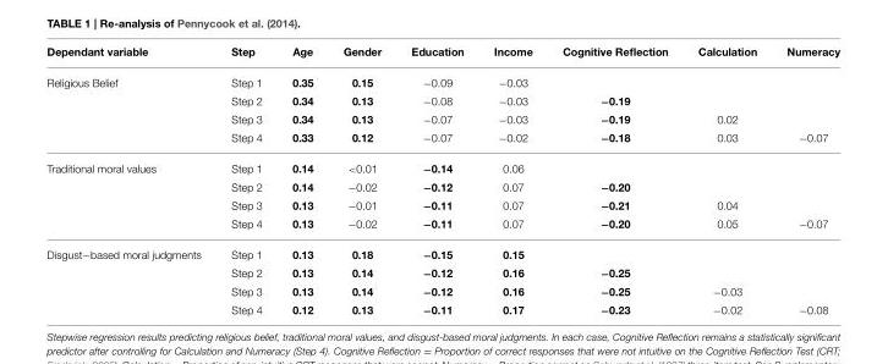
<table><thead><tr><td>Dependant variable</td><td>Step</td><td>Age</td><td>Gender</td><td>Education</td><td>Income</td><td>Cognitive Reflection</td><td>Calculation</td><td>Numeracy</td></tr></thead><tbody><tr><td rowspan="4">Religious Belief</td><td>Step 1</td><td>0.35</td><td>0.15</td><td>−0.09</td><td>−0.03</td><td></td><td></td><td></td></tr><tr><td>Step 2</td><td>0.34</td><td>0.13</td><td>−0.08</td><td>−0.03</td><td>−0.19</td><td></td><td></td></tr><tr><td>Step 3</td><td>0.34</td><td>0.13</td><td>−0.07</td><td>−0.03</td><td>−0.19</td><td>0.02</td><td></td></tr><tr><td>Step 4</td><td>0.33</td><td>0.12</td><td>−0.07</td><td>−0.02</td><td>−0.18</td><td>0.03</td><td>−0.07</td></tr><tr><td rowspan="4">Traditional moral values</td><td>Step 1</td><td>0.14</td><td>&lt;0.01</td><td>−0.14</td><td>0.06</td><td></td><td></td><td></td></tr><tr><td>Step 2</td><td>0.14</td><td>−0.02</td><td>−0.12</td><td>0.07</td><td>−0.20</td><td></td><td></td></tr><tr><td>Step 3</td><td>0.13</td><td>−0.01</td><td>−0.11</td><td>0.07</td><td>−0.21</td><td>0.04</td><td></td></tr><tr><td>Step 4</td><td>0.13</td><td>−0.02</td><td>−0.11</td><td>0.07</td><td>−0.20</td><td>0.05</td><td>−0.07</td></tr><tr><td rowspan="4">Disgust−based moral judgments</td><td>Step 1</td><td>0.13</td><td>0.18</td><td>−0.15</td><td>0.15</td><td></td><td></td><td></td></tr><tr><td>Step 2</td><td>0.13</td><td>0.14</td><td>−0.12</td><td>0.16</td><td>−0.25</td><td></td><td></td></tr><tr><td>Step 3</td><td>0.13</td><td>0.14</td><td>−0.12</td><td>0.16</td><td>−0.25</td><td>−0.03</td><td></td></tr><tr><td>Step 4</td><td>0.12</td><td>0.13</td><td>−0.11</td><td>0.17</td><td>−0.23</td><td>−0.02</td><td>−0.08</td></tr></tbody></table>